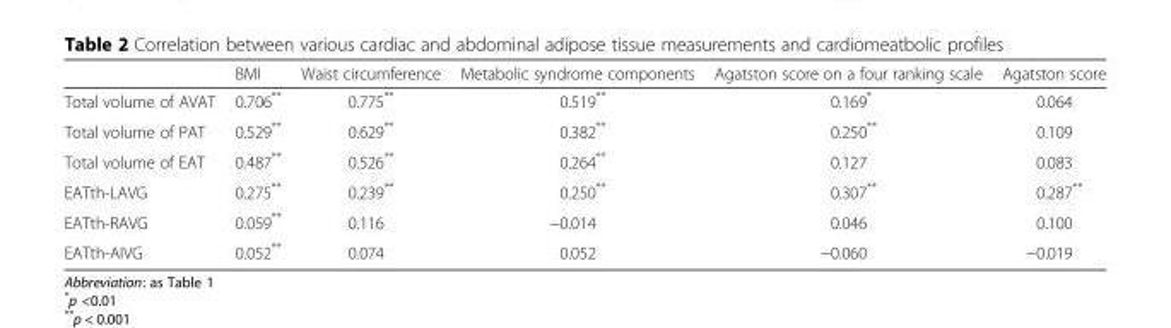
<table><thead><tr><td></td><td>BMI</td><td>Waist circumference</td><td>Metabolic syndrome components</td><td>Agatston score on a four ranking scale</td><td>Agatston score</td></tr></thead><tbody><tr><td>Total volume of AVAT</td><td>0.706**</td><td>0.775**</td><td>0.519**</td><td>0.169*</td><td>0.064</td></tr><tr><td>Total volume of PAT</td><td>0.529**</td><td>0.629**</td><td>0.382**</td><td>0.250**</td><td>0.109</td></tr><tr><td>Total volume of EAT</td><td>0.487**</td><td>0.526**</td><td>0.264**</td><td>0.127</td><td>0.083</td></tr><tr><td>EATth-LAVG</td><td>0.275**</td><td>0.239**</td><td>0.250**</td><td>0.307**</td><td>0.287**</td></tr><tr><td>EATth-RAVG</td><td>0.059**</td><td>0.116</td><td>−0.014</td><td>0.046</td><td>0.100</td></tr><tr><td>EATth-AIVG</td><td>0.052**</td><td>0.074</td><td>0.052</td><td>−0.060</td><td>−0.019</td></tr></tbody></table>